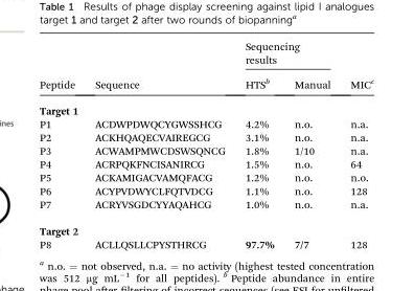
<table><thead><tr><td rowspan="2">Peptide</td><td rowspan="2">Sequence</td><td colspan="2">Sequencing results</td><td rowspan="2">MIC<sup>c</sup></td></tr><tr><td>HTS<sup>b</sup></td><td>Manual</td></tr></thead><tbody><tr><td colspan="5">Target 1</td></tr><tr><td>P1</td><td>ACDWPDWQCYGWSSHCG</td><td>4.2%</td><td>n.o.</td><td>n.a.</td></tr><tr><td>P2</td><td>ACKHQAQECVAIREGCG</td><td>3.1%</td><td>n.o.</td><td>n.a.</td></tr><tr><td>P3</td><td>ACWAMPMWCDSWSQNCG</td><td>1.8%</td><td>1/10</td><td>n.a.</td></tr><tr><td>P4</td><td>ACRPQKFNCISANIRCG</td><td>1.5%</td><td>n.o.</td><td>64</td></tr><tr><td>P5</td><td>ACKAMIGACVAMQFACG</td><td>1.2%</td><td>n.o.</td><td>n.o.</td></tr><tr><td>P6</td><td>ACYPVDWYCLFQTVDCG</td><td>1.1%</td><td>n.o.</td><td>128</td></tr><tr><td>P7</td><td>ACRYVSGDCYYAQAHCG</td><td>1.0%</td><td>n.o.</td><td>n.a.</td></tr><tr><td colspan="5">Target 2</td></tr><tr><td>P8</td><td>ACLLQSLLCPYSTHRCG</td><td>97.7%</td><td>7/7</td><td>128</td></tr></tbody></table>